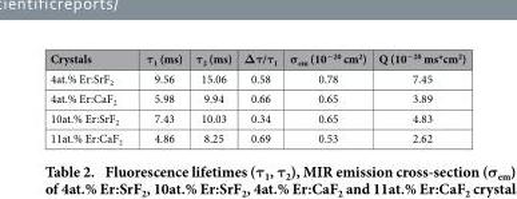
<table><thead><tr><td>Crystals</td><td>τ<sub>1</sub> (ms)</td><td>τ<sub>2</sub> (ms)</td><td>Δτ/τ<sub>1</sub></td><td>σ<sub>em</sub> (10<sup>−20</sup> cm<sup>2</sup>)</td><td>Q (10<sup>−20</sup> ms*cm<sup>2</sup>)</td></tr></thead><tbody><tr><td>4at.% Er:SrF<sub>2</sub></td><td>9.56</td><td>15.06</td><td>0.58</td><td>0.78</td><td>7.45</td></tr><tr><td>4at.% Er:CaF<sub>2</sub></td><td>5.98</td><td>9.94</td><td>0.66</td><td>0.65</td><td>3.89</td></tr><tr><td>10at.% Er:SrF<sub>2</sub></td><td>7.43</td><td>10.03</td><td>0.34</td><td>0.65</td><td>4.83</td></tr><tr><td>11at.% Er:CaF<sub>2</sub></td><td>4.86</td><td>8.25</td><td>0.69</td><td>0.53</td><td>2.62</td></tr></tbody></table>